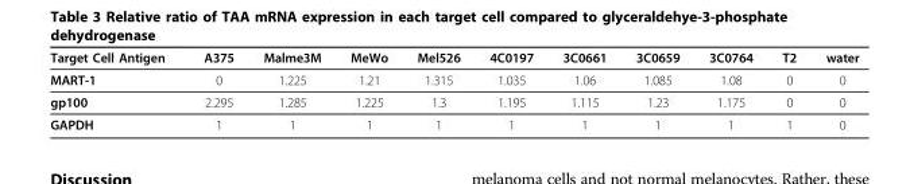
<table><thead><tr><td>Target Cell Antigen</td><td>A375</td><td>Malme3M</td><td>MeWo</td><td>Mel526</td><td>4C0197</td><td>3C0661</td><td>3C0659</td><td>3C0764</td><td>T2</td><td>water</td></tr></thead><tbody><tr><td>MART-1</td><td>0</td><td>1.225</td><td>1.21</td><td>1.315</td><td>1.035</td><td>1.06</td><td>1.085</td><td>1.08</td><td>0</td><td>0</td></tr><tr><td>gp100</td><td>2.295</td><td>1.285</td><td>1.225</td><td>1.3</td><td>1.195</td><td>1.115</td><td>1.23</td><td>1.175</td><td>0</td><td>0</td></tr><tr><td>GAPDH</td><td>1</td><td>1</td><td>1</td><td>1</td><td>1</td><td>1</td><td>1</td><td>1</td><td>1</td><td>0</td></tr></tbody></table>